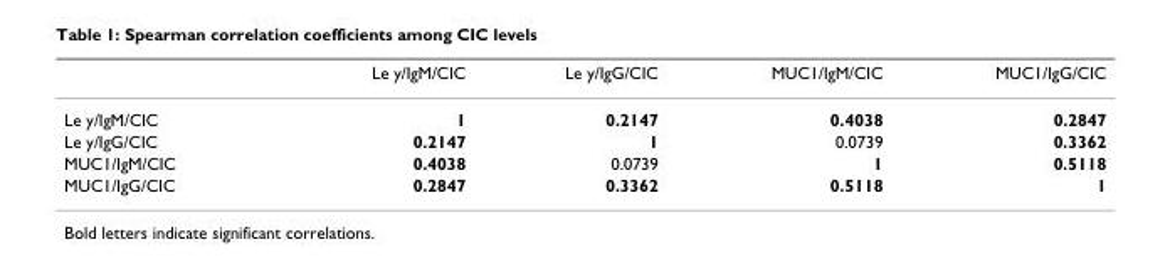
<table><thead><tr><td></td><td>Le y/IgM/CIC</td><td>Le y/IgG/CIC</td><td>MUC1/IgM/CIC</td><td>MUC1/IgG/CIC</td></tr></thead><tbody><tr><td>Le y/IgM/CIC</td><td>1</td><td>0.2147</td><td>0.4038</td><td>0.2847</td></tr><tr><td>Le y/IgG/CIC</td><td>0.2147</td><td>1</td><td>0.0739</td><td>0.3362</td></tr><tr><td>MUC1/IgM/CIC</td><td>0.4038</td><td>0.0739</td><td>1</td><td>0.5118</td></tr><tr><td>MUC1/IgG/CIC</td><td>0.2847</td><td>0.3362</td><td>0.5118</td><td>1</td></tr></tbody></table>